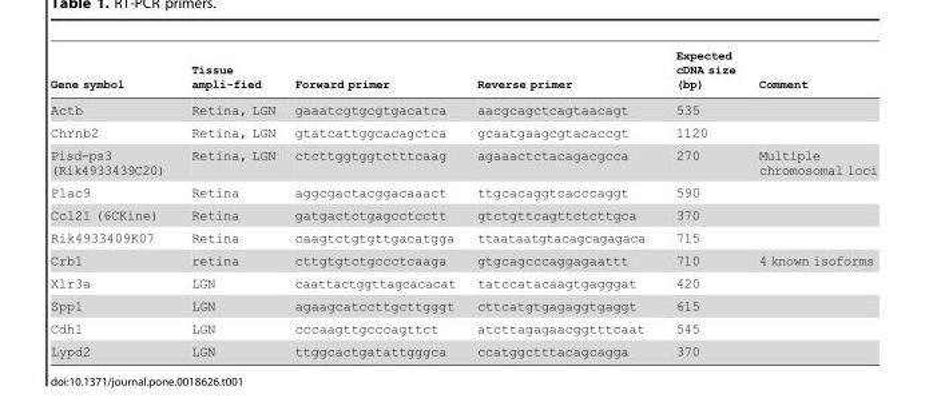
<table><thead><tr><td>Gene symbol</td><td>Tissue ampli-fied</td><td>Forward primer</td><td>Reverse primer</td><td>Expected cDNA size (bp)</td><td>Comment</td></tr></thead><tbody><tr><td>Actb</td><td>Retina, LGN</td><td>gaaatcgtgcgtgacatca</td><td>aacgcagctcagtaacagt</td><td>535</td><td></td></tr><tr><td>Chrnb2</td><td>Retina, LGN</td><td>gtatcattggcacagctca</td><td>gcaatgaagcgtacaccgt</td><td>1120</td><td></td></tr><tr><td>Pisd-ps3 (Rik4933439C20)</td><td>Retina, LGN</td><td>ctcttggtggtctttcaag</td><td>agaaactctacagacgcca</td><td>270</td><td>Multiple chromosomal loci</td></tr><tr><td>Plac9</td><td>Retina</td><td>aggcgactacggacaaact</td><td>ttgcacaggtcacccaggt</td><td>590</td><td></td></tr><tr><td>Ccl21 (6CKine)</td><td>Retina</td><td>gatgactctgagcctcctt</td><td>gtctgttcagttctcttgca</td><td>370</td><td></td></tr><tr><td>Rik4933409K07</td><td>Retina</td><td>caagtctgtgttgacatgga</td><td>ttaataatgtacagcagagaca</td><td>715</td><td></td></tr><tr><td>Crb1</td><td>retina</td><td>cttgtgtctgccctcaaga</td><td>gtgcagcccaggagaattt</td><td>710</td><td>4 known isoforms</td></tr><tr><td>Xlr3a</td><td>LGN</td><td>caattactggttagcacacat</td><td>tatccatacaagtgagggat</td><td>420</td><td></td></tr><tr><td>Spp1</td><td>LGN</td><td>agaagcatccttgcttgggt</td><td>cttcatgtgagaggtgaggt</td><td>615</td><td></td></tr><tr><td>Cdh1</td><td>LGN</td><td>cccaagttgcccagttct</td><td>atcttagagaacggtttcaat</td><td>545</td><td></td></tr><tr><td>Lypd2</td><td>LGN</td><td>ttggcactgatattgggca</td><td>ccatggctttacagcagga</td><td>370</td><td></td></tr></tbody></table>